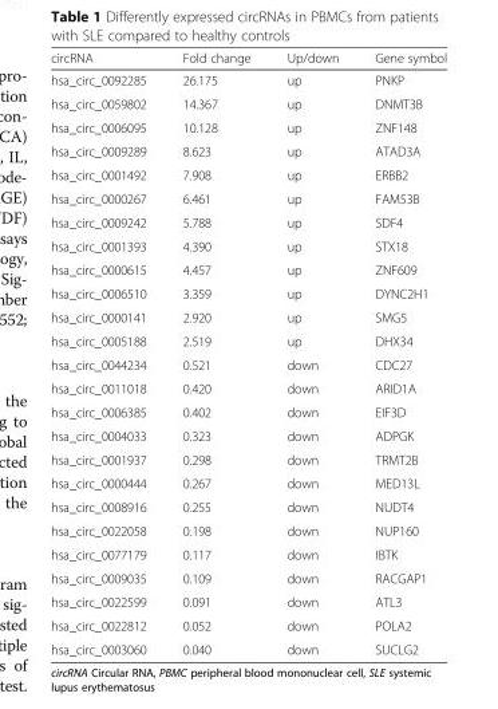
<table><thead><tr><td>circRNA</td><td>Fold change</td><td>Up/down</td><td>Gene symbol</td></tr></thead><tbody><tr><td>hsa_circ_0092285</td><td>26.175</td><td>up</td><td>PNKP</td></tr><tr><td>hsa_circ_0059802</td><td>14.367</td><td>up</td><td>DNMT3B</td></tr><tr><td>hsa_circ_0006095</td><td>10.128</td><td>up</td><td>ZNF148</td></tr><tr><td>hsa_circ_0009289</td><td>8.623</td><td>up</td><td>ATAD3A</td></tr><tr><td>hsa_circ_0001492</td><td>7.908</td><td>up</td><td>ERBB2</td></tr><tr><td>hsa_circ_0000267</td><td>6.461</td><td>up</td><td>FAM53B</td></tr><tr><td>hsa_circ_0009242</td><td>5.788</td><td>up</td><td>SDF4</td></tr><tr><td>hsa_circ_0001393</td><td>4.390</td><td>up</td><td>STX18</td></tr><tr><td>hsa_circ_0000615</td><td>4.457</td><td>up</td><td>ZNF609</td></tr><tr><td>hsa_circ_0006510</td><td>3.359</td><td>up</td><td>DYNC2H1</td></tr><tr><td>hsa_circ_0000141</td><td>2.920</td><td>up</td><td>SMG5</td></tr><tr><td>hsa_circ_0005188</td><td>2.519</td><td>up</td><td>DHX34</td></tr><tr><td>hsa_circ_0044234</td><td>0.521</td><td>down</td><td>CDC27</td></tr><tr><td>hsa_circ_0011018</td><td>0.420</td><td>down</td><td>ARID1A</td></tr><tr><td>hsa_circ_0006385</td><td>0.402</td><td>down</td><td>EIF3D</td></tr><tr><td>hsa_circ_0004033</td><td>0.323</td><td>down</td><td>ADPGK</td></tr><tr><td>hsa_circ_0001937</td><td>0.298</td><td>down</td><td>TRMT2B</td></tr><tr><td>hsa_circ_0000444</td><td>0.267</td><td>down</td><td>MED13L</td></tr><tr><td>hsa_circ_0008916</td><td>0.255</td><td>down</td><td>NUDT4</td></tr><tr><td>hsa_circ_0022058</td><td>0.198</td><td>down</td><td>NUP160</td></tr><tr><td>hsa_circ_0077179</td><td>0.117</td><td>down</td><td>IBTK</td></tr><tr><td>hsa_circ_0009035</td><td>0.109</td><td>down</td><td>RACGAP1</td></tr><tr><td>hsa_circ_0022599</td><td>0.091</td><td>down</td><td>ATL3</td></tr><tr><td>hsa_circ_0022812</td><td>0.052</td><td>down</td><td>POLA2</td></tr><tr><td>hsa_circ_0003060</td><td>0.040</td><td>down</td><td>SUCLG2</td></tr></tbody></table>